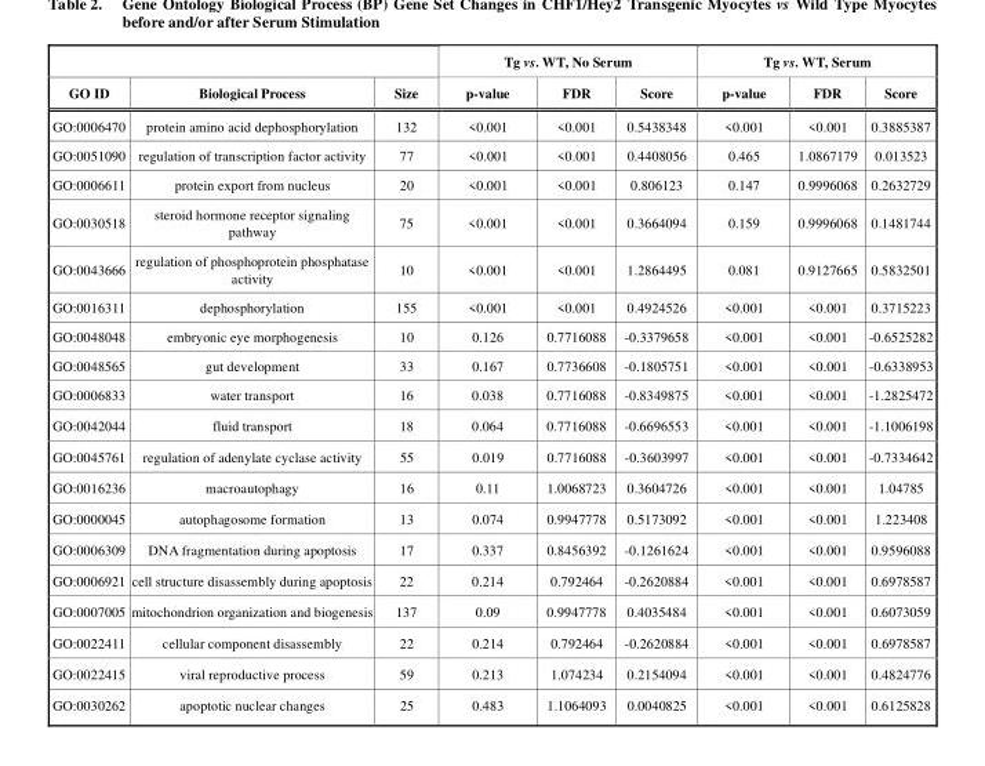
<table><thead><tr><td rowspan="2">GO ID</td><td rowspan="2">Biological Process</td><td rowspan="2">Size</td><td colspan="3">Tg vs. WT, No Serum</td><td colspan="3">Tg vs. WT, Serum</td></tr><tr><td>p-value</td><td>FDR</td><td>Score</td><td>p-value</td><td>FDR</td><td>Score</td></tr></thead><tbody><tr><td>GO:0006470</td><td>protein amino acid dephosphorylation</td><td>132</td><td>&lt;0.001</td><td>&lt;0.001</td><td>0.5438348</td><td>&lt;0.001</td><td>&lt;0.001</td><td>0.3885387</td></tr><tr><td>GO:0051090</td><td>regulation of transcription factor activity</td><td>77</td><td>&lt;0.001</td><td>&lt;0.001</td><td>0.4408056</td><td>0.465</td><td>1.0867179</td><td>0.013523</td></tr><tr><td>GO:0006611</td><td>protein export from nucleus</td><td>20</td><td>&lt;0.001</td><td>&lt;0.001</td><td>0.806123</td><td>0.147</td><td>0.9996068</td><td>0.2632729</td></tr><tr><td>GO:0030518</td><td>steroid hormone receptor signaling pathway</td><td>75</td><td>&lt;0.001</td><td>&lt;0.001</td><td>0.3664094</td><td>0.159</td><td>0.9996068</td><td>0.1481744</td></tr><tr><td>GO:0043666</td><td>regulation of phosphoprotein phosphatase activity</td><td>10</td><td>&lt;0.001</td><td>&lt;0.001</td><td>1.2864495</td><td>0.081</td><td>0.9127665</td><td>0.5832501</td></tr><tr><td>GO:0016311</td><td>dephosphorylation</td><td>155</td><td>&lt;0.001</td><td>&lt;0.001</td><td>0.4924526</td><td>&lt;0.001</td><td>&lt;0.001</td><td>0.3715223</td></tr><tr><td>GO:0048048</td><td>embryonic eye morphogenesis</td><td>10</td><td>0.126</td><td>0.7716088</td><td>-0.3379658</td><td>&lt;0.001</td><td>&lt;0.001</td><td>-0.6525282</td></tr><tr><td>GO:0048565</td><td>gut development</td><td>33</td><td>0.167</td><td>0.7736608</td><td>-0.1805751</td><td>&lt;0.001</td><td>&lt;0.001</td><td>-0.6338953</td></tr><tr><td>GO:0006833</td><td>water transport</td><td>16</td><td>0.038</td><td>0.7716088</td><td>-0.8349875</td><td>&lt;0.001</td><td>&lt;0.001</td><td>-1.2825472</td></tr><tr><td>GO:0042044</td><td>fluid transport</td><td>18</td><td>0.064</td><td>0.7716088</td><td>-0.6696553</td><td>&lt;0.001</td><td>&lt;0.001</td><td>-1.1006198</td></tr><tr><td>GO:0045761</td><td>regulation of adenylate cyclase activity</td><td>55</td><td>0.019</td><td>0.7716088</td><td>-0.3603997</td><td>&lt;0.001</td><td>&lt;0.001</td><td>-0.7334642</td></tr><tr><td>GO:0016236</td><td>macroautophagy</td><td>16</td><td>0.11</td><td>1.0068723</td><td>0.3604726</td><td>&lt;0.001</td><td>&lt;0.001</td><td>1.04785</td></tr><tr><td>GO:0000045</td><td>autophagosome formation</td><td>13</td><td>0.074</td><td>0.9947778</td><td>0.5173092</td><td>&lt;0.001</td><td>&lt;0.001</td><td>1.223408</td></tr><tr><td>GO:0006309</td><td>DNA fragmentation during apoptosis</td><td>17</td><td>0.337</td><td>0.8456392</td><td>-0.1261624</td><td>&lt;0.001</td><td>&lt;0.001</td><td>0.9596088</td></tr><tr><td>GO:0006921</td><td>cell structure disassembly during apoptosis</td><td>22</td><td>0.214</td><td>0.792464</td><td>-0.2620884</td><td>&lt;0.001</td><td>&lt;0.001</td><td>0.6978587</td></tr><tr><td>GO:0007005</td><td>mitochondrion organization and biogenesis</td><td>137</td><td>0.09</td><td>0.9947778</td><td>0.4035484</td><td>&lt;0.001</td><td>&lt;0.001</td><td>0.6073059</td></tr><tr><td>GO:0022411</td><td>cellular component disassembly</td><td>22</td><td>0.214</td><td>0.792464</td><td>-0.2620884</td><td>&lt;0.001</td><td>&lt;0.001</td><td>0.6978587</td></tr><tr><td>GO:0022415</td><td>viral reproductive process</td><td>59</td><td>0.213</td><td>1.074234</td><td>0.2154094</td><td>&lt;0.001</td><td>&lt;0.001</td><td>0.4824776</td></tr><tr><td>GO:0030262</td><td>apoptotic nuclear changes</td><td>25</td><td>0.483</td><td>1.1064093</td><td>0.0040825</td><td>&lt;0.001</td><td>&lt;0.001</td><td>0.6125828</td></tr></tbody></table>